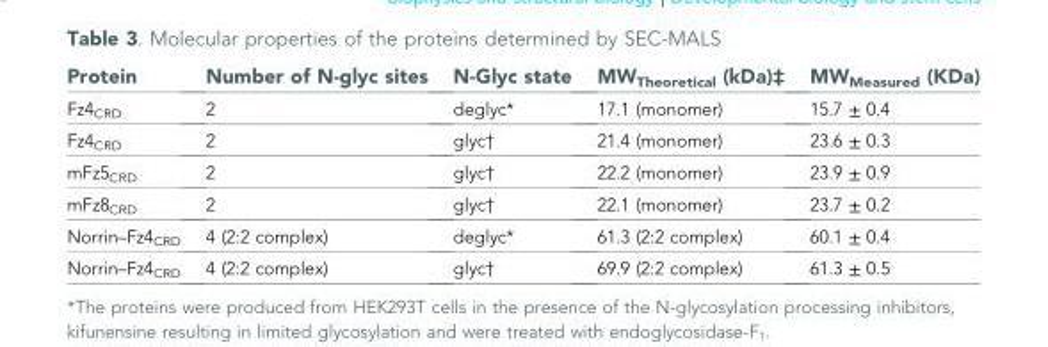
<table><thead><tr><td>Protein</td><td>Number of N-glyc sites</td><td>N-Glyc state</td><td>MW<sub>Theoretical</sub> (kDa)‡</td><td>MW<sub>Measured</sub> (KDa)</td></tr></thead><tbody><tr><td>Fz4<sub>CRD</sub></td><td>2</td><td>deglyc*</td><td>17.1 (monomer)</td><td>15.7 ± 0.4</td></tr><tr><td>Fz4<sub>CRD</sub></td><td>2</td><td>glyc†</td><td>21.4 (monomer)</td><td>23.6 ± 0.3</td></tr><tr><td>mFz5<sub>CRD</sub></td><td>2</td><td>glyc†</td><td>22.2 (monomer)</td><td>23.9 ± 0.9</td></tr><tr><td>mFz8<sub>CRD</sub></td><td>2</td><td>glyc†</td><td>22.1 (monomer)</td><td>23.7 ± 0.2</td></tr><tr><td>Norrin–Fz4<sub>CRD</sub></td><td>4 (2:2 complex)</td><td>deglyc*</td><td>61.3 (2:2 complex)</td><td>60.1 ± 0.4</td></tr><tr><td>Norrin–Fz4<sub>CRD</sub></td><td>4 (2:2 complex)</td><td>glyc†</td><td>69.9 (2:2 complex)</td><td>61.3 ± 0.5</td></tr></tbody></table>